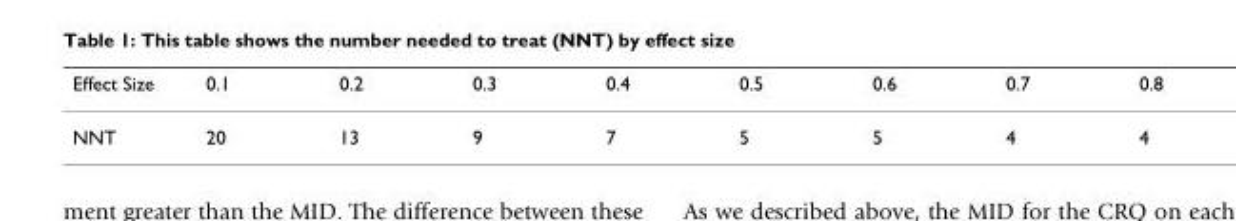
<table><thead><tr><td>Effect Size</td><td>0.1</td><td>0.2</td><td>0.3</td><td>0.4</td><td>0.5</td><td>0.6</td><td>0.7</td><td>0.8</td></tr></thead><tbody><tr><td>NNT</td><td>20</td><td>13</td><td>9</td><td>7</td><td>5</td><td>5</td><td>4</td><td>4</td></tr></tbody></table>